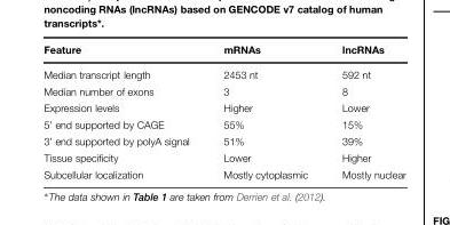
<table><thead><tr><td>Feature</td><td>mRNAs</td><td>lncRNAs</td></tr></thead><tbody><tr><td>Median transcript length</td><td>2453 nt</td><td>592 nt</td></tr><tr><td>Median number of exons</td><td>3</td><td>8</td></tr><tr><td>Expression levels</td><td>Higher</td><td>Lower</td></tr><tr><td>5’ end supported by CAGE</td><td>55%</td><td>15%</td></tr><tr><td>3’ end supported by polyA signal</td><td>51%</td><td>39%</td></tr><tr><td>Tissue specificity</td><td>Lower</td><td>Higher</td></tr><tr><td>Subcellular localization</td><td>Mostly cytoplasmic</td><td>Mostly nuclear</td></tr></tbody></table>